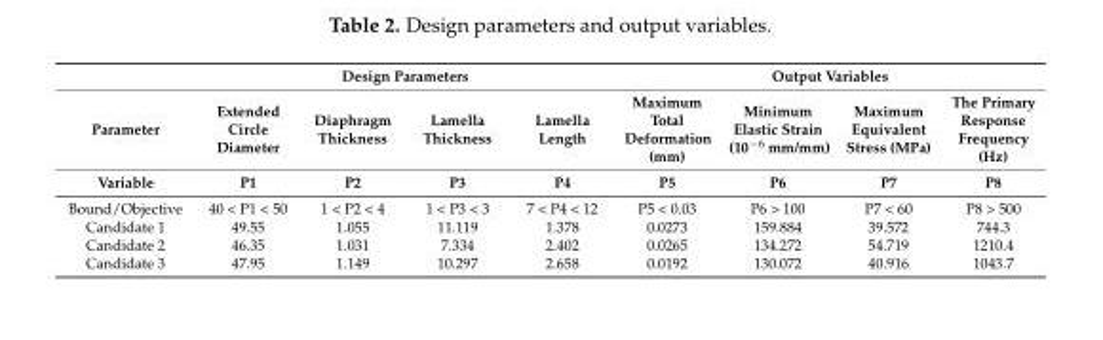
<table><thead><tr><td rowspan="3">Parameter Variable</td><td colspan="4">Design Parameters</td><td colspan="4">Output Variables</td></tr><tr><td rowspan="2">Extended Circle Diameter P1</td><td rowspan="2">Diaphragm Thickness P2</td><td rowspan="2">Lamella Thickness P3</td><td rowspan="2">Lamella Length P4</td><td rowspan="2">Maximum Total Deformation (mm) P5</td><td rowspan="2">Minimum Elastic Strain (10<sup>−6</sup> mm/mm) P6</td><td rowspan="2">Maximum Equivalent Stress (MPa) P7</td><td rowspan="2">The Primary Response Frequency (Hz) P8</td></tr><tr></tr></thead><tbody><tr><td>Bound/Objective</td><td>40 &lt; P1 &lt; 50</td><td>1 &lt; P2 &lt; 4</td><td>1 &lt; P3 &lt; 3</td><td>7 &lt; P4 &lt; 12</td><td>P5 &lt; 0.03</td><td>P6 &gt; 100</td><td>P7 &lt; 60</td><td>P8 &gt; 500</td></tr><tr><td>Candidate 1</td><td>49.55</td><td>1.055</td><td>11.119</td><td>1.378</td><td>0.0273</td><td>159.884</td><td>39.572</td><td>744.3</td></tr><tr><td>Candidate 2</td><td>46.35</td><td>1.031</td><td>7.334</td><td>2.402</td><td>0.0265</td><td>134.272</td><td>54.719</td><td>1210.4</td></tr><tr><td>Candidate 3</td><td>47.95</td><td>1.149</td><td>10.297</td><td>2.658</td><td>0.0192</td><td>130.072</td><td>40.916</td><td>1043.7</td></tr></tbody></table>